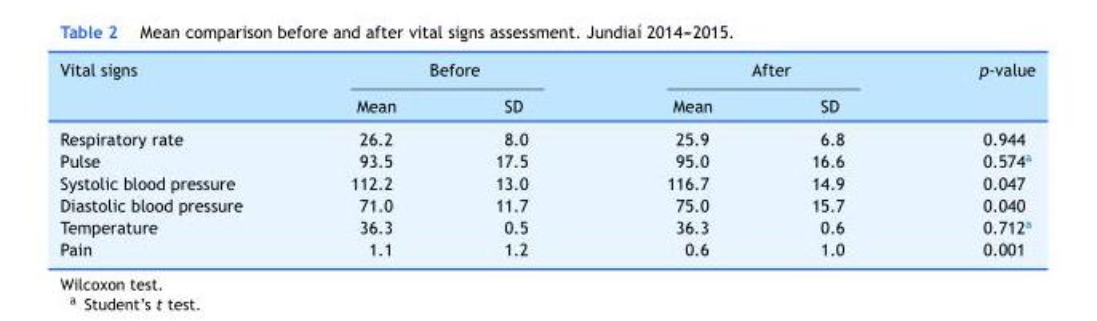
<table><thead><tr><td rowspan="2">Vital signs</td><td colspan="2">Before</td><td colspan="2">After</td><td rowspan="2">p-value</td></tr><tr><td>Mean</td><td>SD</td><td>Mean</td><td>SD</td></tr></thead><tbody><tr><td>Respiratory rate</td><td>26.2</td><td>8.0</td><td>25.9</td><td>6.8</td><td>0.944</td></tr><tr><td>Pulse</td><td>93.5</td><td>17.5</td><td>95.0</td><td>16.6</td><td>0.574<sup>a</sup></td></tr><tr><td>Systolic blood pressure</td><td>112.2</td><td>13.0</td><td>116.7</td><td>14.9</td><td>0.047</td></tr><tr><td>Diastolic blood pressure</td><td>71.0</td><td>11.7</td><td>75.0</td><td>15.7</td><td>0.040</td></tr><tr><td>Temperature</td><td>36.3</td><td>0.5</td><td>36.3</td><td>0.6</td><td>0.712<sup>a</sup></td></tr><tr><td>Pain</td><td>1.1</td><td>1.2</td><td>0.6</td><td>1.0</td><td>0.001</td></tr></tbody></table>